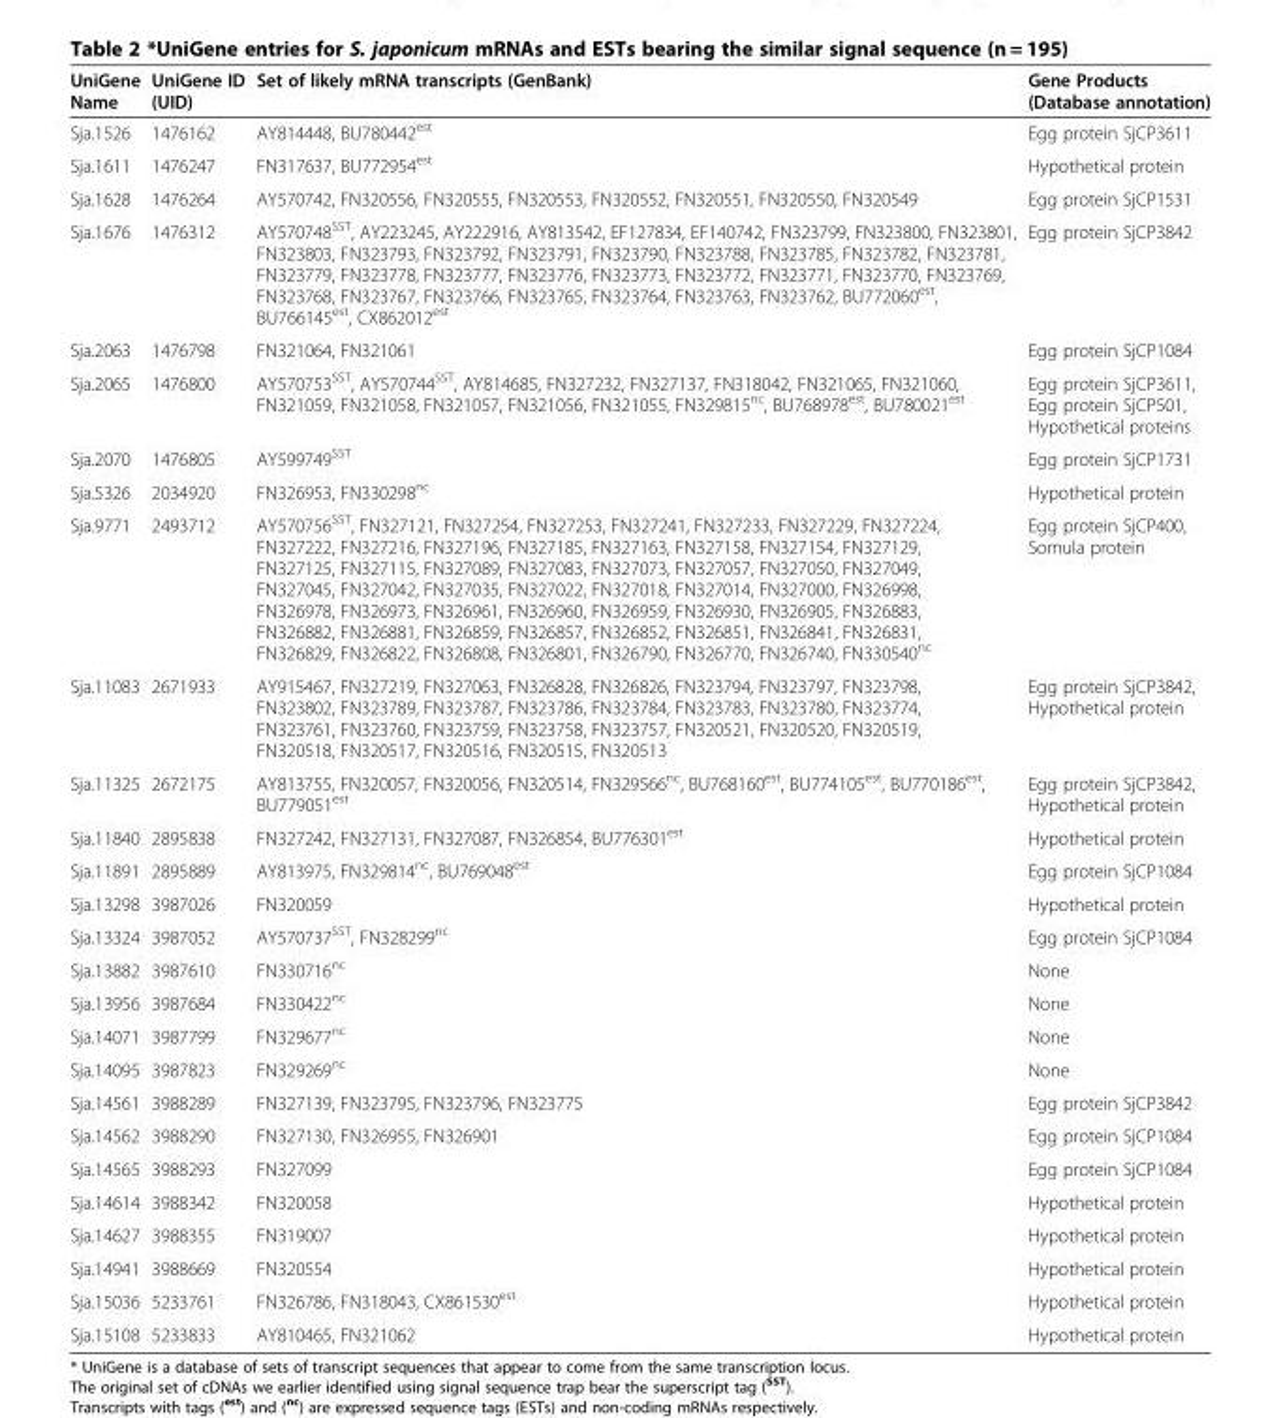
<table><thead><tr><td>UniGene Name</td><td>UniGene ID (UID)</td><td>Set of likely mRNA transcripts (GenBank)</td><td>Gene Products (Database annotation)</td></tr></thead><tbody><tr><td>Sja.1526</td><td>1476162</td><td>AY814448, BU780442<sup>est</sup></td><td>Egg protein SjCP3611</td></tr><tr><td>Sja.1611</td><td>1476247</td><td>FN317637, BU772954<sup>est</sup></td><td>Hypothetical protein</td></tr><tr><td>Sja.1628</td><td>1476264</td><td>AY570742, FN320556, FN320555, FN320553, FN320552, FN320551, FN320550, FN320549</td><td>Egg protein SjCP1531</td></tr><tr><td>Sja.1676</td><td>1476312</td><td>AY570748<sup>SST</sup>, AY223245, AY222916, AY813542, EF127834, EF140742, FN323799, FN323800, FN323801, FN323803, FN323793, FN323792, FN323791, FN323790, FN323788, FN323785, FN323782, FN323781, FN323779, FN323778, FN323777, FN323776, FN323773, FN323772, FN323771, FN323770, FN323769, FN323768, FN323767, FN323766, FN323765, FN323764, FN323763, FN323762, BU772060<sup>est</sup>, BU766145<sup>est</sup>, CX862012<sup>est</sup></td><td>Egg protein SjCP3842</td></tr><tr><td>Sja.2063</td><td>1476798</td><td>FN321064, FN321061</td><td>Egg protein SjCP1084</td></tr><tr><td>Sja.2065</td><td>1476800</td><td>AY570753<sup>SST</sup>, AY570744<sup>SST</sup>, AY814685, FN327232, FN327137, FN318042, FN321065, FN321060, FN321059, FN321058, FN321057, FN321056, FN321055, FN329815<sup>nc</sup>, BU768978<sup>est</sup>, BU780021<sup>est</sup></td><td>Egg protein SjCP3611, Egg protein SjCP501, Hypothetical proteins</td></tr><tr><td>Sja.2070</td><td>1476805</td><td>AY599749<sup>SST</sup></td><td>Egg protein SjCP1731</td></tr><tr><td>Sja.5326</td><td>2034920</td><td>FN326953, FN330298<sup>nc</sup></td><td>Hypothetical protein</td></tr><tr><td>Sja.9771</td><td>2493712</td><td>AY570756<sup>SST</sup>, FN327121, FN327254, FN327253, FN327241, FN327233, FN327229, FN327224, FN327222, FN327216, FN327196, FN327185, FN327163, FN327158, FN327154, FN327129, FN327125, FN327115, FN327089, FN327083, FN327073, FN327057, FN327050, FN327049, FN327045, FN327042, FN327035, FN327022, FN327018, FN327014, FN327000, FN326998, FN326978, FN326973, FN326961, FN326960, FN326959, FN326930, FN326905, FN326883, FN326882, FN326881, FN326859, FN326857, FN326852, FN326851, FN326841, FN326831, FN326829, FN326822, FN326808, FN326801, FN326790, FN326770, FN326740, FN330540<sup>nc</sup></td><td>Egg protein SjCP400, Somula protein</td></tr><tr><td>Sja.11083</td><td>2671933</td><td>AY915467, FN327219, FN327063, FN326828, FN326826, FN323794, FN323797, FN323798, FN323802, FN323789, FN323787, FN323786, FN323784, FN323783, FN323780, FN323774, FN323761, FN323760, FN323759, FN323758, FN323757, FN320521, FN320520, FN320519, FN320518, FN320517, FN320516, FN320515, FN320513</td><td>Egg protein SjCP3842, Hypothetical protein</td></tr><tr><td>Sja.11325</td><td>2672175</td><td>AY813755, FN320057, FN320056, FN320514, FN329566<sup>nc</sup>, BU768160<sup>est</sup>, BU774105<sup>est</sup>, BU770186<sup>est</sup>, BU779051<sup>est</sup></td><td>Egg protein SjCP3842, Hypothetical protein</td></tr><tr><td>Sja.11840</td><td>2895838</td><td>FN327242, FN327131, FN327087, FN326854, BU776301<sup>est</sup></td><td>Hypothetical protein</td></tr><tr><td>Sja.11891</td><td>2895889</td><td>AY813975, FN329814<sup>nc</sup>, BU769048<sup>est</sup></td><td>Egg protein SjCP1084</td></tr><tr><td>Sja.13298</td><td>3987026</td><td>FN320059</td><td>Hypothetical protein</td></tr><tr><td>Sja.13324</td><td>3987052</td><td>AY570737<sup>SST</sup>, FN328299<sup>nc</sup></td><td>Egg protein SjCP1084</td></tr><tr><td>Sja.13882</td><td>3987610</td><td>FN330716<sup>nc</sup></td><td>None</td></tr><tr><td>Sja.13956</td><td>3987684</td><td>FN330422<sup>nc</sup></td><td>None</td></tr><tr><td>Sja.14071</td><td>3987799</td><td>FN329677<sup>nc</sup></td><td>None</td></tr><tr><td>Sja.14095</td><td>3987823</td><td>FN329269<sup>nc</sup></td><td>None</td></tr><tr><td>Sja.14561</td><td>3988289</td><td>FN327139, FN323795, FN323796, FN323775</td><td>Egg protein SjCP3842</td></tr><tr><td>Sja.14562</td><td>3988290</td><td>FN327130, FN326955, FN326901</td><td>Egg protein SjCP1084</td></tr><tr><td>Sja.14565</td><td>3988293</td><td>FN327099</td><td>Egg protein SjCP1084</td></tr><tr><td>Sja.14614</td><td>3988342</td><td>FN320058</td><td>Hypothetical protein</td></tr><tr><td>Sja.14627</td><td>3988355</td><td>FN319007</td><td>Hypothetical protein</td></tr><tr><td>Sja.14941</td><td>3988669</td><td>FN320554</td><td>Hypothetical protein</td></tr><tr><td>Sja.15036</td><td>5233761</td><td>FN326786, FN318043, CX861530<sup>est</sup></td><td>Hypothetical protein</td></tr><tr><td>Sja.15108</td><td>5233833</td><td>AY810465, FN321062</td><td>Hypothetical protein</td></tr></tbody></table>